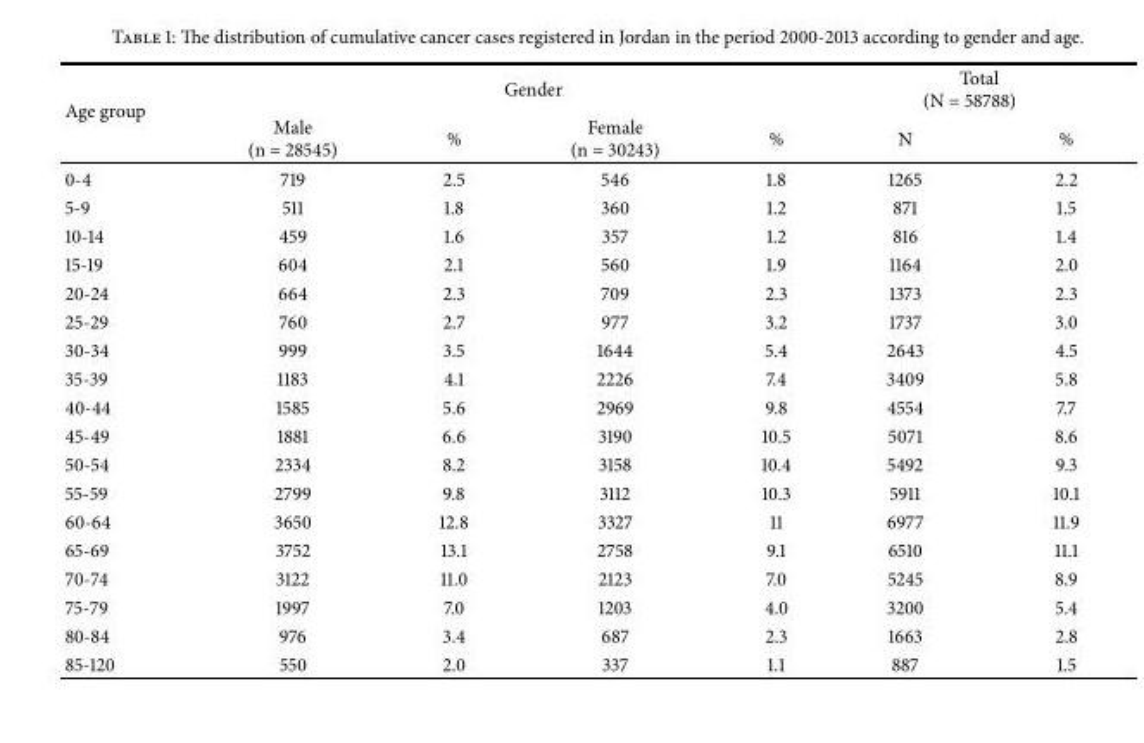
<table><thead><tr><td rowspan="2">Age group</td><td colspan="4">Gender</td><td colspan="2">Total (N = 58788)</td></tr><tr><td>Male (n = 28545)</td><td>%</td><td>Female (n = 30243)</td><td>%</td><td>N</td><td>%</td></tr></thead><tbody><tr><td>0-4</td><td>719</td><td>2.5</td><td>546</td><td>1.8</td><td>1265</td><td>2.2</td></tr><tr><td>5-9</td><td>511</td><td>1.8</td><td>360</td><td>1.2</td><td>871</td><td>1.5</td></tr><tr><td>10-14</td><td>459</td><td>1.6</td><td>357</td><td>1.2</td><td>816</td><td>1.4</td></tr><tr><td>15-19</td><td>604</td><td>2.1</td><td>560</td><td>1.9</td><td>1164</td><td>2.0</td></tr><tr><td>20-24</td><td>664</td><td>2.3</td><td>709</td><td>2.3</td><td>1373</td><td>2.3</td></tr><tr><td>25-29</td><td>760</td><td>2.7</td><td>977</td><td>3.2</td><td>1737</td><td>3.0</td></tr><tr><td>30-34</td><td>999</td><td>3.5</td><td>1644</td><td>5.4</td><td>2643</td><td>4.5</td></tr><tr><td>35-39</td><td>1183</td><td>4.1</td><td>2226</td><td>7.4</td><td>3409</td><td>5.8</td></tr><tr><td>40-44</td><td>1585</td><td>5.6</td><td>2969</td><td>9.8</td><td>4554</td><td>7.7</td></tr><tr><td>45-49</td><td>1881</td><td>6.6</td><td>3190</td><td>10.5</td><td>5071</td><td>8.6</td></tr><tr><td>50-54</td><td>2334</td><td>8.2</td><td>3158</td><td>10.4</td><td>5492</td><td>9.3</td></tr><tr><td>55-59</td><td>2799</td><td>9.8</td><td>3112</td><td>10.3</td><td>5911</td><td>10.1</td></tr><tr><td>60-64</td><td>3650</td><td>12.8</td><td>3327</td><td>11</td><td>6977</td><td>11.9</td></tr><tr><td>65-69</td><td>3752</td><td>13.1</td><td>2758</td><td>9.1</td><td>6510</td><td>11.1</td></tr><tr><td>70-74</td><td>3122</td><td>11.0</td><td>2123</td><td>7.0</td><td>5245</td><td>8.9</td></tr><tr><td>75-79</td><td>1997</td><td>7.0</td><td>1203</td><td>4.0</td><td>3200</td><td>5.4</td></tr><tr><td>80-84</td><td>976</td><td>3.4</td><td>687</td><td>2.3</td><td>1663</td><td>2.8</td></tr><tr><td>85-120</td><td>550</td><td>2.0</td><td>337</td><td>1.1</td><td>887</td><td>1.5</td></tr></tbody></table>